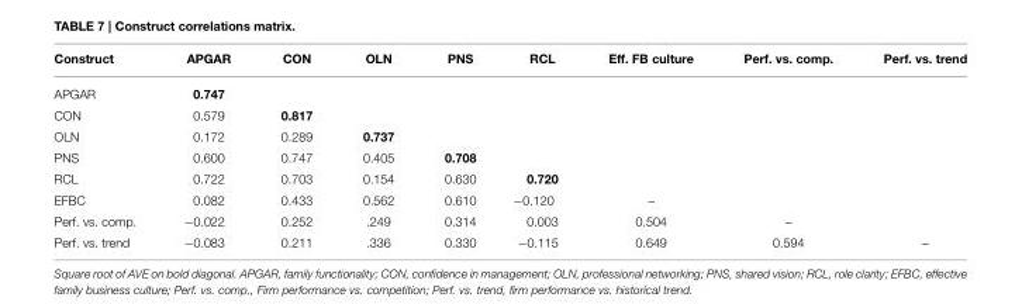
<table><thead><tr><td>Construct</td><td>APGAR</td><td>CON</td><td>OLN</td><td>PNS</td><td>RCL</td><td>Eff. FB culture</td><td>Perf. vs. comp.</td><td>Perf. vs. trend</td></tr></thead><tbody><tr><td>APGAR</td><td>0.747</td><td></td><td></td><td></td><td></td><td></td><td></td><td></td></tr><tr><td>CON</td><td>0.579</td><td>0.817</td><td></td><td></td><td></td><td></td><td></td><td></td></tr><tr><td>OLN</td><td>0.172</td><td>0.289</td><td>0.737</td><td></td><td></td><td></td><td></td><td></td></tr><tr><td>PNS</td><td>0.600</td><td>0.747</td><td>0.405</td><td>0.708</td><td></td><td></td><td></td><td></td></tr><tr><td>RCL</td><td>0.722</td><td>0.703</td><td>0.154</td><td>0.630</td><td>0.720</td><td></td><td></td><td></td></tr><tr><td>EFBC</td><td>0.082</td><td>0.433</td><td>0.562</td><td>0.610</td><td>−0.120</td><td>–</td><td></td><td></td></tr><tr><td>Perf. vs. comp.</td><td>−0.022</td><td>0.252</td><td>.249</td><td>0.314</td><td>0.003</td><td>0.504</td><td>–</td><td></td></tr><tr><td>Perf. vs. trend</td><td>−0.083</td><td>0.211</td><td>.336</td><td>0.330</td><td>−0.115</td><td>0.649</td><td>0.594</td><td>–</td></tr></tbody></table>